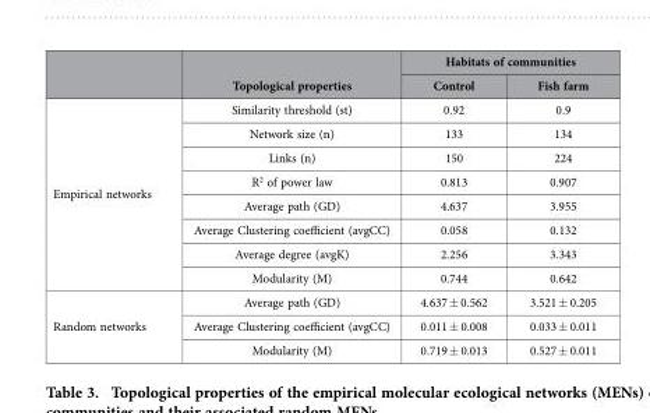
<table><thead><tr><td rowspan="2"></td><td rowspan="2">Topological properties</td><td colspan="2">Habitats of communities</td></tr><tr><td>Control</td><td>Fish farm</td></tr></thead><tbody><tr><td rowspan="8">Empirical networks</td><td>Similarity threshold (st)</td><td>0.92</td><td>0.9</td></tr><tr><td>Network size (n)</td><td>133</td><td>134</td></tr><tr><td>Links (n)</td><td>150</td><td>224</td></tr><tr><td>R<sup>2</sup> of power law</td><td>0.813</td><td>0.907</td></tr><tr><td>Average path (GD)</td><td>4.637</td><td>3.955</td></tr><tr><td>Average Clustering coefficient (avgCC)</td><td>0.058</td><td>0.132</td></tr><tr><td>Average degree (avgK)</td><td>2.256</td><td>3.343</td></tr><tr><td>Modularity (M)</td><td>0.744</td><td>0.642</td></tr><tr><td rowspan="3">Random networks</td><td>Average path (GD)</td><td>4.637 ± 0.562</td><td>3.521 ± 0.205</td></tr><tr><td>Average Clustering coefficient (avgCC)</td><td>0.011 ± 0.008</td><td>0.033 ± 0.011</td></tr><tr><td>Modularity (M)</td><td>0.719 ± 0.013</td><td>0.527 ± 0.011</td></tr></tbody></table>